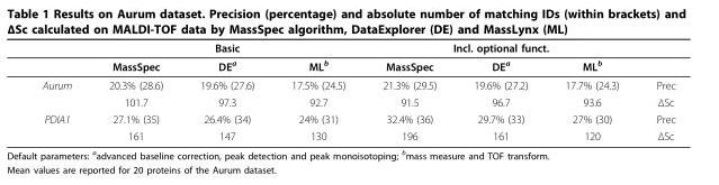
<table><thead><tr><td rowspan="2"></td><td colspan="3">Basic</td><td colspan="3">Incl. optional funct.</td><td rowspan="2"></td></tr><tr><td>MassSpec</td><td>DE<sup>a</sup></td><td>ML<sup>b</sup></td><td>MassSpec</td><td>DE<sup>a</sup></td><td>ML<sup>b</sup></td></tr></thead><tbody><tr><td rowspan="2">Aurum</td><td>20.3% (28.6)</td><td>19.6% (27.6)</td><td>17.5% (24.5)</td><td>21.3% (29.5)</td><td>19.6% (27.2)</td><td>17.7% (24.3)</td><td>Prec</td></tr><tr><td>101.7</td><td>97.3</td><td>92.7</td><td>91.5</td><td>96.7</td><td>93.6</td><td>ΔSc</td></tr><tr><td rowspan="2">PDIA1</td><td>27.1% (35)</td><td>26.4% (34)</td><td>24% (31)</td><td>32.4% (36)</td><td>29.7% (33)</td><td>27% (30)</td><td>Prec</td></tr><tr><td>161</td><td>147</td><td>130</td><td>196</td><td>161</td><td>120</td><td>ΔSc</td></tr></tbody></table>